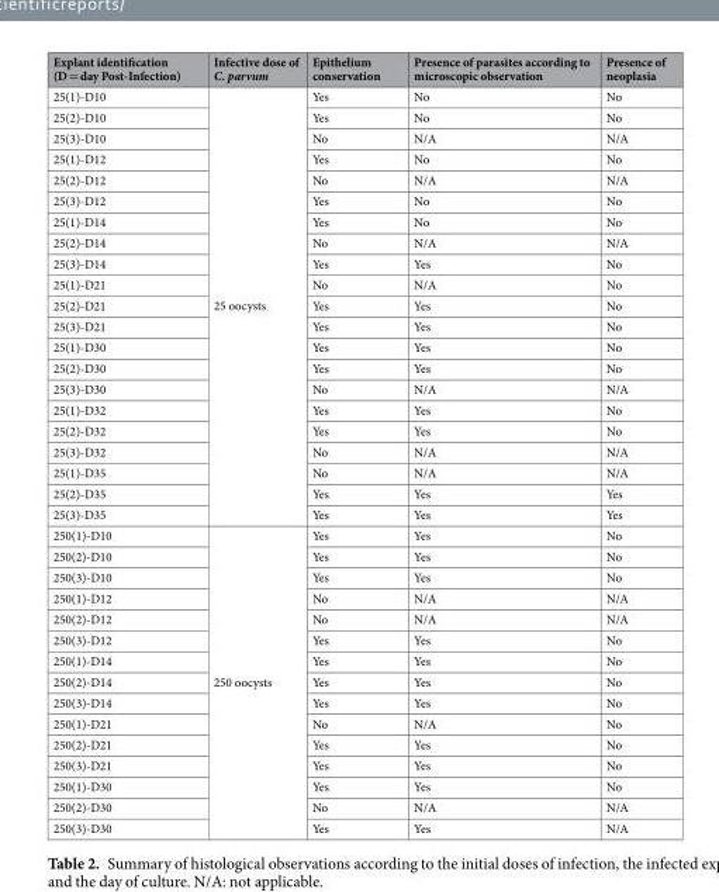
<table><thead><tr><td>Explant identification (D = day Post-Infection)</td><td>Infective dose of C. parvum</td><td>Epithelium conservation</td><td>Presence of parasites according to microscopic observation</td><td>Presence of neoplasia</td></tr></thead><tbody><tr><td>25(1)-D10</td><td rowspan="21">25 oocysts</td><td>Yes</td><td>No</td><td>No</td></tr><tr><td>25(2)-D10</td><td>Yes</td><td>No</td><td>No</td></tr><tr><td>25(3)-D10</td><td>No</td><td>N/A</td><td>N/A</td></tr><tr><td>25(1)-D12</td><td>Yes</td><td>No</td><td>No</td></tr><tr><td>25(2)-D12</td><td>No</td><td>N/A</td><td>N/A</td></tr><tr><td>25(3)-D12</td><td>Yes</td><td>No</td><td>No</td></tr><tr><td>25(1)-D14</td><td>Yes</td><td>No</td><td>No</td></tr><tr><td>25(2)-D14</td><td>No</td><td>N/A</td><td>N/A</td></tr><tr><td>25(3)-D14</td><td>Yes</td><td>Yes</td><td>No</td></tr><tr><td>25(1)-D21</td><td>No</td><td>N/A</td><td>No</td></tr><tr><td>25(2)-D21</td><td>Yes</td><td>Yes</td><td>No</td></tr><tr><td>25(3)-D21</td><td>Yes</td><td>Yes</td><td>No</td></tr><tr><td>25(1)-D30</td><td>Yes</td><td>Yes</td><td>No</td></tr><tr><td>25(2)-D30</td><td>Yes</td><td>Yes</td><td>No</td></tr><tr><td>25(3)-D30</td><td>No</td><td>N/A</td><td>N/A</td></tr><tr><td>25(1)-D32</td><td>Yes</td><td>Yes</td><td>No</td></tr><tr><td>25(2)-D32</td><td>Yes</td><td>Yes</td><td>No</td></tr><tr><td>25(3)-D32</td><td>No</td><td>N/A</td><td>N/A</td></tr><tr><td>25(1)-D35</td><td>No</td><td>N/A</td><td>N/A</td></tr><tr><td>25(2)-D35</td><td>Yes</td><td>Yes</td><td>Yes</td></tr><tr><td>25(3)-D35</td><td>Yes</td><td>Yes</td><td>Yes</td></tr><tr><td>250(1)-D10</td><td rowspan="15">250 oocysts</td><td>Yes</td><td>Yes</td><td>No</td></tr><tr><td>250(2)-D10</td><td>Yes</td><td>Yes</td><td>No</td></tr><tr><td>250(3)-D10</td><td>Yes</td><td>Yes</td><td>No</td></tr><tr><td>250(1)-D12</td><td>No</td><td>N/A</td><td>N/A</td></tr><tr><td>250(2)-D12</td><td>No</td><td>N/A</td><td>N/A</td></tr><tr><td>250(3)-D12</td><td>Yes</td><td>Yes</td><td>No</td></tr><tr><td>250(1)-D14</td><td>Yes</td><td>Yes</td><td>No</td></tr><tr><td>250(2)-D14</td><td>Yes</td><td>Yes</td><td>No</td></tr><tr><td>250(3)-D14</td><td>Yes</td><td>Yes</td><td>No</td></tr><tr><td>250(1)-D21</td><td>No</td><td>N/A</td><td>No</td></tr><tr><td>250(2)-D21</td><td>Yes</td><td>Yes</td><td>No</td></tr><tr><td>250(3)-D21</td><td>Yes</td><td>Yes</td><td>No</td></tr><tr><td>250(1)-D30</td><td>Yes</td><td>Yes</td><td>No</td></tr><tr><td>250(2)-D30</td><td>No</td><td>N/A</td><td>N/A</td></tr><tr><td>250(3)-D30</td><td>Yes</td><td>Yes</td><td>N/A</td></tr></tbody></table>